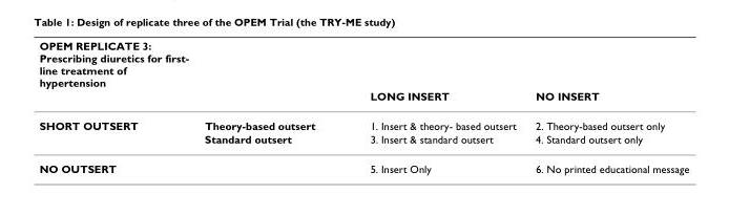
<table><thead><tr><td rowspan="2">OPEM REPLICATE 3: Prescribing diuretics for first- line treatment of hypertension</td><td rowspan="2"></td><td rowspan="2">LONG INSERT</td><td rowspan="2">NO INSERT</td></tr><tr></tr></thead><tbody><tr><td rowspan="2">SHORT OUTSERT</td><td>Theory-based outsert</td><td>1. Insert &amp; theory- based outsert</td><td>2. Theory-based outsert only</td></tr><tr><td>Standard outsert</td><td>3. Insert &amp; standard outsert</td><td>4. Standard outsert only</td></tr><tr><td>NO OUTSERT</td><td></td><td>5. Insert Only</td><td>6. No printed educational message</td></tr></tbody></table>